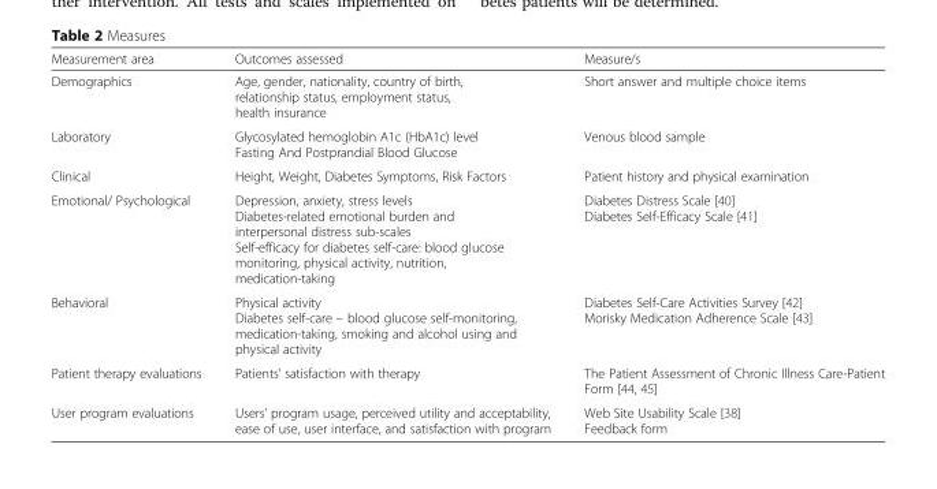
<table><thead><tr><td>Measurement area</td><td>Outcomes assessed</td><td>Measure/s</td></tr></thead><tbody><tr><td>Demographics</td><td>Age, gender, nationality, country of birth, relationship status, employment status, health insurance</td><td>Short answer and multiple choice items</td></tr><tr><td>Laboratory</td><td>Glycosylated hemoglobin A1c (HbA1c) level Fasting And Postprandial Blood Glucose</td><td>Venous blood sample</td></tr><tr><td>Clinical</td><td>Height, Weight, Diabetes Symptoms, Risk Factors</td><td>Patient history and physical examination</td></tr><tr><td>Emotional/ Psychological</td><td>Depression, anxiety, stress levels Diabetes-related emotional burden and interpersonal distress sub-scales Self-efficacy for diabetes self-care: blood glucose monitoring, physical activity, nutrition, medication-taking</td><td>Diabetes Distress Scale [40] Diabetes Self-Efficacy Scale [41]</td></tr><tr><td>Behavioral</td><td>Physical activity Diabetes self-care – blood glucose self-monitoring, medication-taking, smoking and alcohol using and physical activity</td><td>Diabetes Self-Care Activities Survey [42] Morisky Medication Adherence Scale [43]</td></tr><tr><td>Patient therapy evaluations</td><td>Patients’ satisfaction with therapy</td><td>The Patient Assessment of Chronic Illness Care-Patient Form [44, 45]</td></tr><tr><td>User program evaluations</td><td>Users’ program usage, perceived utility and acceptability, ease of use, user interface, and satisfaction with program</td><td>Web Site Usability Scale [38] Feedback form</td></tr></tbody></table>